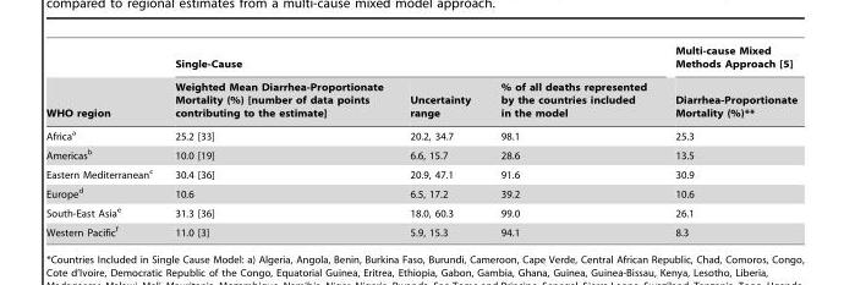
<table><thead><tr><td rowspan="2">WHO region</td><td colspan="3">Single-Cause</td><td rowspan="2">Multi-cause Mixed Methods Approach [5] Diarrhea-Proportionate Mortality (%)**</td></tr><tr><td>Weighted Mean Diarrhea-Proportionate Mortality (%) [number of data points contributing to the estimate]</td><td>Uncertainty range</td><td>% of all deaths represented by the countries included in the model</td></tr></thead><tbody><tr><td>Africa<sup>a</sup></td><td>25.2 [33]</td><td>20.2, 34.7</td><td>98.1</td><td>25.3</td></tr><tr><td>Americas<sup>b</sup></td><td>10.0 [19]</td><td>6.6, 15.7</td><td>28.6</td><td>13.5</td></tr><tr><td>Eastern Mediterranean<sup>c</sup></td><td>30.4 [36]</td><td>20.9, 47.1</td><td>91.6</td><td>30.9</td></tr><tr><td>Europe<sup>d</sup></td><td>10.6</td><td>6.5, 17.2</td><td>39.2</td><td>10.6</td></tr><tr><td>South-East Asia<sup>e</sup></td><td>31.3 [36]</td><td>18.0, 60.3</td><td>99.0</td><td>26.1</td></tr><tr><td>Western Pacific<sup>f</sup></td><td>11.0 [3]</td><td>5.9, 15.3</td><td>94.1</td><td>8.3</td></tr></tbody></table>